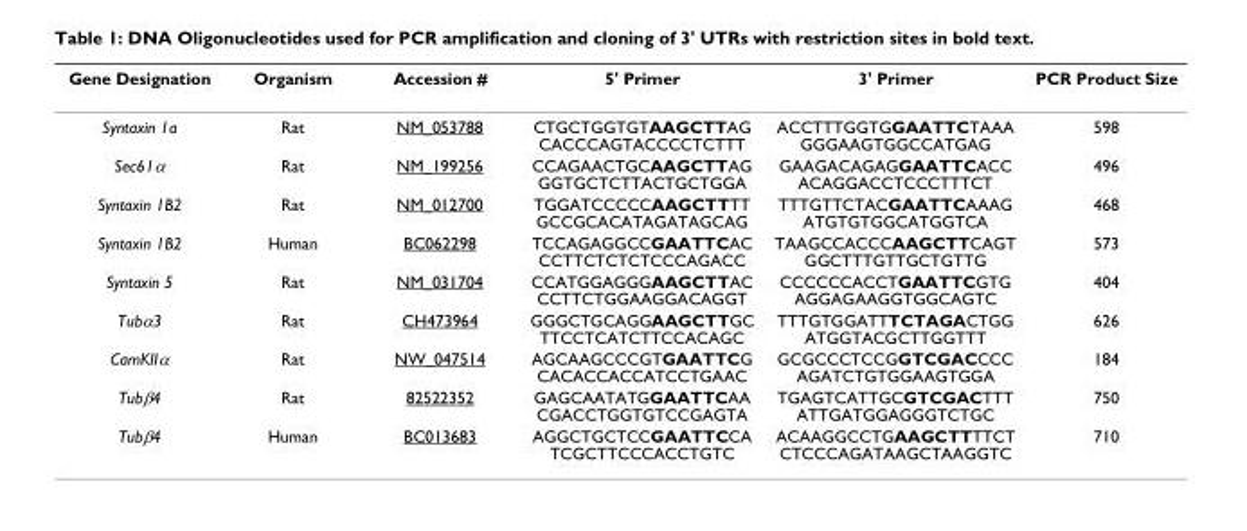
<table><thead><tr><td>Gene Designation</td><td>Organism</td><td>Accession #</td><td>5&#x27; Primer</td><td>3&#x27; Primer</td><td>PCR Product Size</td></tr></thead><tbody><tr><td>Syntaxin 1a</td><td>Rat</td><td>NM_053788</td><td>CTGCTGGTGTAAGCTTAG CACCCAGTACCCCTCTTT</td><td>ACCTTTGGTGGAATTCTAAA GGGAAGTGGCCATGAG</td><td>598</td></tr><tr><td>Sec61α</td><td>Rat</td><td>NM_199256</td><td>CCAGAACTGCAAGCTTAG GGTGCTCTTACTGCTGGA</td><td>GAAGACAGAGGAATTCACC ACAGGACCTCCCTTTCT</td><td>496</td></tr><tr><td>Syntaxin 1B2</td><td>Rat</td><td>NM_012700</td><td>TGGATCCCCCAAGCTTTT GCCGCACATAGATAGCAG</td><td>TTTGTTCTACGAATTCAAAG ATGTGTGGCATGGTCA</td><td>468</td></tr><tr><td>Syntaxin 1B2</td><td>Human</td><td>BC062298</td><td>TCCAGAGGCCGAATTCAC CCTTCTCTCTCCCAGACC</td><td>TAAGCCACCCAAGCTTCAGT GGCTTTGTTGCTGTTG</td><td>573</td></tr><tr><td>Syntaxin 5</td><td>Rat</td><td>NM_031704</td><td>CCATGGAGGGAAGCTTAC CCTTCTGGAAGGACAGGT</td><td>CCCCCCACCTGAATTCGTG AGGAGAAGGTGGCAGTC</td><td>404</td></tr><tr><td>Tubα3</td><td>Rat</td><td>CH473964</td><td>GGGCTGCAGGAAGCTTGC TTCCTCATCTTCCACAGC</td><td>TTTGTGGATTTCTAGACTGG ATGGTACGCTTGGTTT</td><td>626</td></tr><tr><td>CamKIIα</td><td>Rat</td><td>NW_047514</td><td>AGCAAGCCCGTGAATTCG CACACCACCATCCTGAAC</td><td>GCGCCCTCCGGTCGACCCC AGATCTGTGGAAGTGGA</td><td>184</td></tr><tr><td>Tubβ4</td><td>Rat</td><td>82522352</td><td>GAGCAATATGGAATTCAA CGACCTGGTGTCCGAGTA</td><td>TGAGTCATTGCGTCGACTTT ATTGATGGAGGGTCTGC</td><td>750</td></tr><tr><td>Tubβ4</td><td>Human</td><td>BC013683</td><td>AGGCTGCTCCGAATTCCA TCGCTTCCCACCTGTC</td><td>ACAAGGCCTGAAGCTTTTCT CTCCCAGATAAGCTAAGGTC</td><td>710</td></tr></tbody></table>